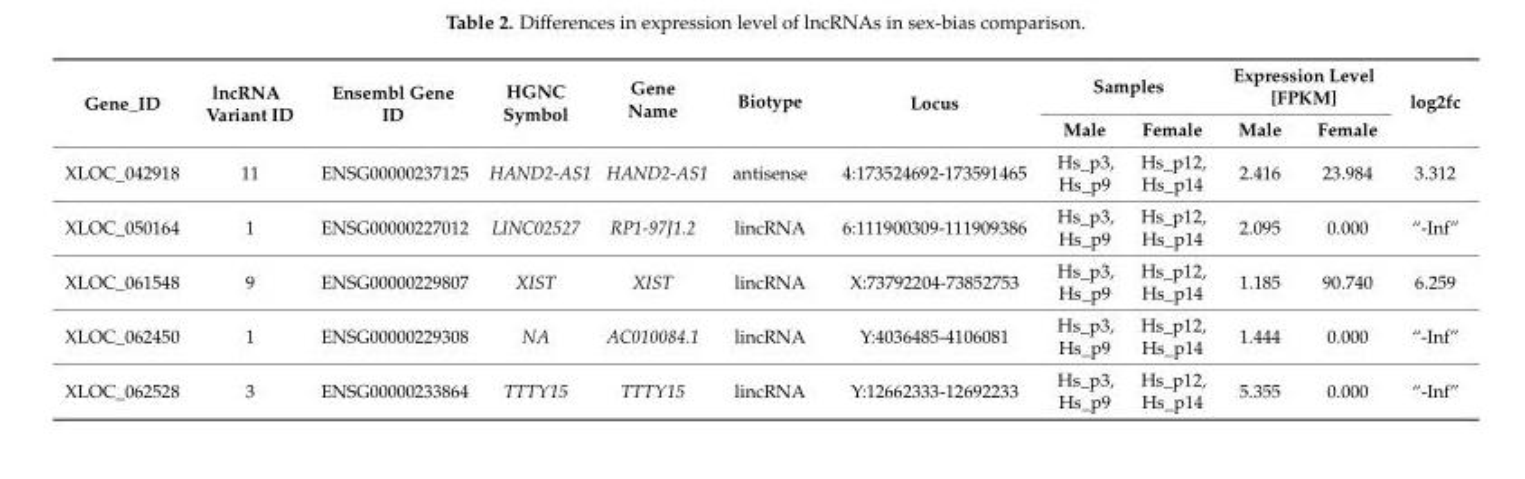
<table><thead><tr><td rowspan="2">Gene_ID</td><td rowspan="2">lncRNA Variant ID</td><td rowspan="2">Ensembl Gene ID</td><td rowspan="2">HGNC Symbol</td><td rowspan="2">Gene Name</td><td rowspan="2">Biotype</td><td rowspan="2">Locus</td><td colspan="2">Samples</td><td colspan="2">Expression Level [FPKM]</td><td rowspan="2">log2fc</td></tr><tr><td>Male</td><td>Female</td><td>Male</td><td>Female</td></tr></thead><tbody><tr><td>XLOC_042918</td><td>11</td><td>ENSG00000237125</td><td>HAND2-AS1</td><td>HAND2-AS1</td><td>antisense</td><td>4:173524692-173591465</td><td>Hs_p3, Hs_p9</td><td>Hs_p12, Hs_p14</td><td>2.416</td><td>23.984</td><td>3.312</td></tr><tr><td>XLOC_050164</td><td>1</td><td>ENSG00000227012</td><td>LINC02527</td><td>RP1-97J1.2</td><td>lincRNA</td><td>6:111900309-111909386</td><td>Hs_p3, Hs_p9</td><td>Hs_p12, Hs_p14</td><td>2.095</td><td>0.000</td><td>“-Inf”</td></tr><tr><td>XLOC_061548</td><td>9</td><td>ENSG00000229807</td><td>XIST</td><td>XIST</td><td>lincRNA</td><td>X:73792204-73852753</td><td>Hs_p3, Hs_p9</td><td>Hs_p12, Hs_p14</td><td>1.185</td><td>90.740</td><td>6.259</td></tr><tr><td>XLOC_062450</td><td>1</td><td>ENSG00000229308</td><td>NA</td><td>AC010084.1</td><td>lincRNA</td><td>Y:4036485-4106081</td><td>Hs_p3, Hs_p9</td><td>Hs_p12, Hs_p14</td><td>1.444</td><td>0.000</td><td>“-Inf”</td></tr><tr><td>XLOC_062528</td><td>3</td><td>ENSG00000233864</td><td>TTTY15</td><td>TTTY15</td><td>lincRNA</td><td>Y:12662333-12692233</td><td>Hs_p3, Hs_p9</td><td>Hs_p12, Hs_p14</td><td>5.355</td><td>0.000</td><td>“-Inf”</td></tr></tbody></table>